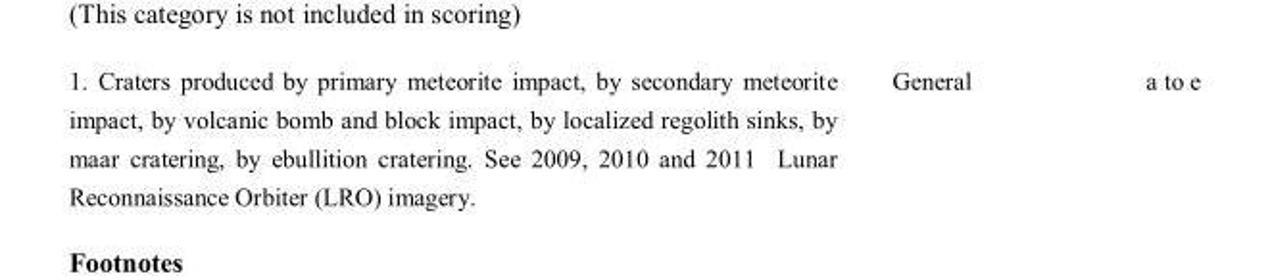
<table><tbody><tr><td>1. Craters produced by primary meteorite impact, by secondary meteorite impact, by volcanic bomb and block impact, by localized regolith sinks, by maar cratering, by ebullition cratering. See 2009, 2010 and 2011 Lunar Reconnaissance Orbiter (LRO) imagery.</td><td>General</td><td>a to e</td></tr></tbody></table>